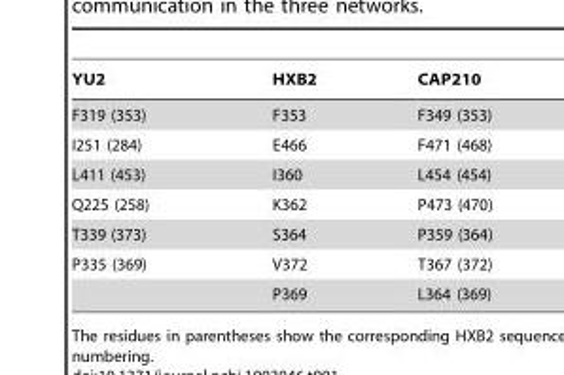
<table><thead><tr><td>YU2</td><td>HXB2</td><td>CAP210</td></tr></thead><tbody><tr><td>F319 (353)</td><td>F353</td><td>F349 (353)</td></tr><tr><td>I251 (284)</td><td>E466</td><td>F471 (468)</td></tr><tr><td>L411 (453)</td><td>I360</td><td>L454 (454)</td></tr><tr><td>Q225 (258)</td><td>K362</td><td>P473 (470)</td></tr><tr><td>T339 (373)</td><td>S364</td><td>P359 (364)</td></tr><tr><td rowspan="2">P335 (369)</td><td>V372</td><td>T367 (372)</td></tr><tr><td>P369</td><td>L364 (369)</td></tr></tbody></table>